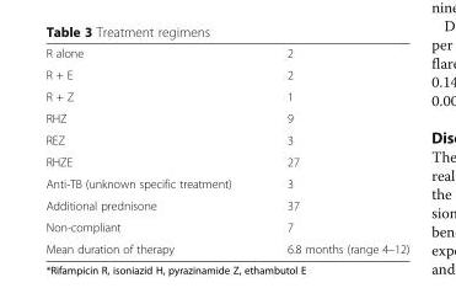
<table><tbody><tr><td>R alone</td><td>2</td></tr><tr><td>R + E</td><td>2</td></tr><tr><td>R + Z</td><td>1</td></tr><tr><td>RHZ</td><td>9</td></tr><tr><td>REZ</td><td>3</td></tr><tr><td>RHZE</td><td>27</td></tr><tr><td>Anti-TB (unknown specific treatment)</td><td>3</td></tr><tr><td>Additional prednisone</td><td>37</td></tr><tr><td>Non-compliant</td><td>7</td></tr><tr><td>Mean duration of therapy</td><td>6.8 months (range 4–12)</td></tr></tbody></table>